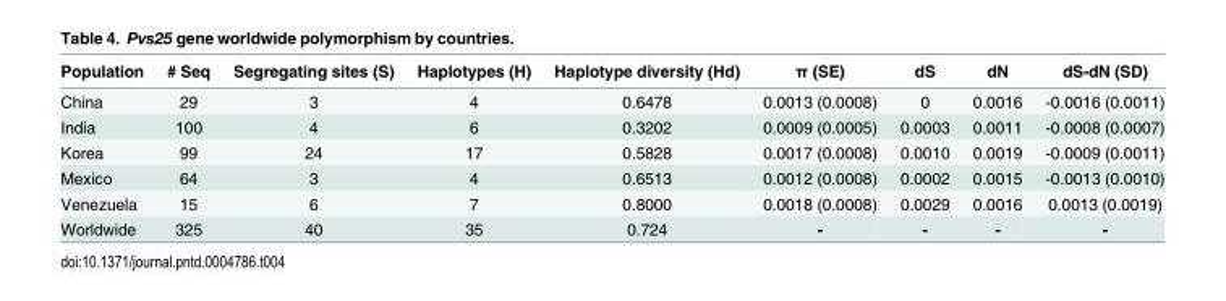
<table><thead><tr><td>Population</td><td># Seq</td><td>Segregating sites (S)</td><td>Haplotypes (H)</td><td>Haplotype diversity (Hd)</td><td>π (SE)</td><td>dS</td><td>dN</td><td>dS-dN (SD)</td></tr></thead><tbody><tr><td>China</td><td>29</td><td>3</td><td>4</td><td>0.6478</td><td>0.0013 (0.0008)</td><td>0</td><td>0.0016</td><td>-0.0016 (0.0011)</td></tr><tr><td>India</td><td>100</td><td>4</td><td>6</td><td>0.3202</td><td>0.0009 (0.0005)</td><td>0.0003</td><td>0.0011</td><td>-0.0008 (0.0007)</td></tr><tr><td>Korea</td><td>99</td><td>24</td><td>17</td><td>0.5828</td><td>0.0017 (0.0008)</td><td>0.0010</td><td>0.0019</td><td>-0.0009 (0.0011)</td></tr><tr><td>Mexico</td><td>64</td><td>3</td><td>4</td><td>0.6513</td><td>0.0012 (0.0008)</td><td>0.0002</td><td>0.0015</td><td>-0.0013 (0.0010)</td></tr><tr><td>Venezuela</td><td>15</td><td>6</td><td>7</td><td>0.8000</td><td>0.0018 (0.0008)</td><td>0.0029</td><td>0.0016</td><td>0.0013 (0.0019)</td></tr><tr><td>Worldwide</td><td>325</td><td>40</td><td>35</td><td>0.724</td><td>-</td><td>-</td><td>-</td><td>-</td></tr></tbody></table>